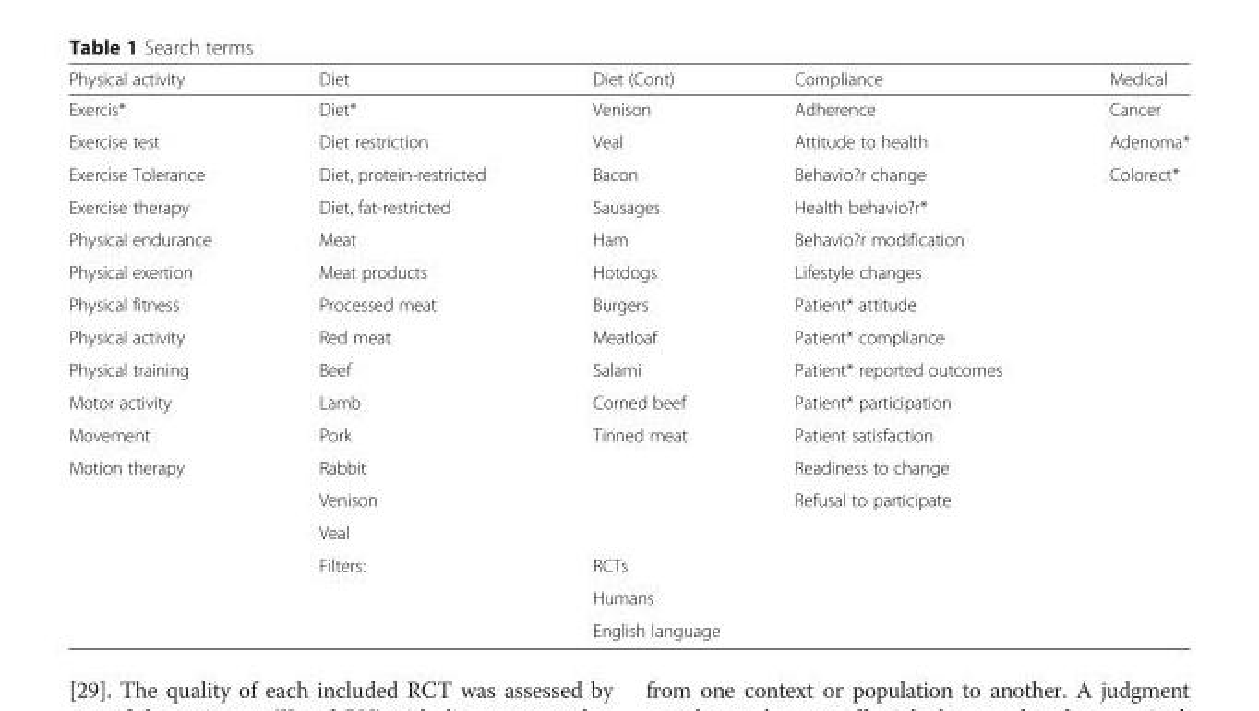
<table><thead><tr><td>Physical activity</td><td>Diet</td><td>Diet (Cont)</td><td>Compliance</td><td>Medical</td></tr></thead><tbody><tr><td>Exercis*</td><td>Diet*</td><td>Venison</td><td>Adherence</td><td>Cancer</td></tr><tr><td>Exercise test</td><td>Diet restriction</td><td>Veal</td><td>Attitude to health</td><td>Adenoma*</td></tr><tr><td>Exercise Tolerance</td><td>Diet, protein-restricted</td><td>Bacon</td><td>Behavio?r change</td><td>Colorect*</td></tr><tr><td>Exercise therapy</td><td>Diet, fat-restricted</td><td>Sausages</td><td>Health behavio?r*</td><td></td></tr><tr><td>Physical endurance</td><td>Meat</td><td>Ham</td><td>Behavio?r modification</td><td></td></tr><tr><td>Physical exertion</td><td>Meat products</td><td>Hotdogs</td><td>Lifestyle changes</td><td></td></tr><tr><td>Physical fitness</td><td>Processed meat</td><td>Burgers</td><td>Patient* attitude</td><td></td></tr><tr><td>Physical activity</td><td>Red meat</td><td>Meatloaf</td><td>Patient* compliance</td><td></td></tr><tr><td>Physical training</td><td>Beef</td><td>Salami</td><td>Patient* reported outcomes</td><td></td></tr><tr><td>Motor activity</td><td>Lamb</td><td>Corned beef</td><td>Patient* participation</td><td></td></tr><tr><td>Movement</td><td>Pork</td><td>Tinned meat</td><td>Patient satisfaction</td><td></td></tr><tr><td rowspan="6">Motion therapy</td><td>Rabbit</td><td></td><td>Readiness to change</td><td></td></tr><tr><td>Venison</td><td></td><td>Refusal to participate</td><td></td></tr><tr><td>Veal</td><td></td><td></td><td></td></tr><tr><td>Filters:</td><td colspan="3">RCTs</td></tr><tr><td></td><td colspan="3">Humans</td></tr><tr><td></td><td colspan="3">English language</td></tr></tbody></table>